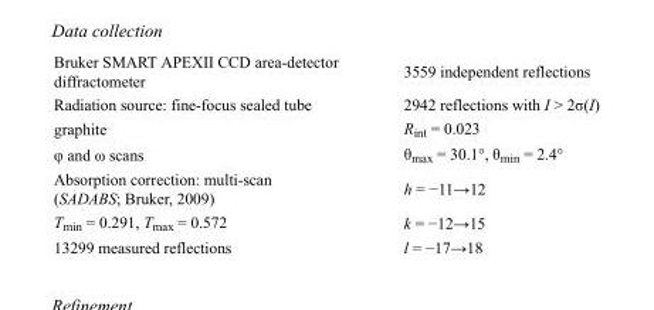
<table><tbody><tr><td>Bruker SMART APEXII CCD area-detector diffractometer</td><td>3559 independent reflections</td></tr><tr><td>Radiation source: fine-focus sealed tube</td><td>2942 reflections with I &gt; 2σ(I)</td></tr><tr><td>graphite</td><td>R<sub>int</sub> = 0.023</td></tr><tr><td>φ and ω scans</td><td>θ<sub>max</sub> = 30.1°, θ<sub>min</sub> = 2.4°</td></tr><tr><td>Absorption correction: multi-scan (SADABS; Bruker, 2009)</td><td>h = −11→12</td></tr><tr><td>T<sub>min</sub> = 0.291, T<sub>max</sub> = 0.572</td><td>k = −12→15</td></tr><tr><td>13299 measured reflections</td><td>l = −17→18</td></tr></tbody></table>